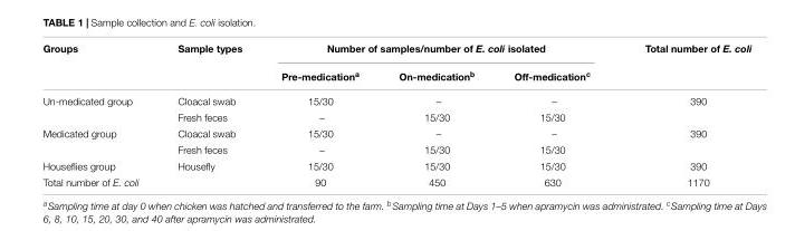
<table><thead><tr><td rowspan="2">Groups</td><td rowspan="2">Sample types</td><td colspan="3">Number of samples/number of E. coli isolated</td><td rowspan="2">Total number of E. coli</td></tr><tr><td>Pre-medication<sup>a</sup></td><td>On-medication<sup>b</sup></td><td>Off-medication<sup>c</sup></td></tr></thead><tbody><tr><td rowspan="2">Un-medicated group</td><td>Cloacal swab</td><td>15/30</td><td>–</td><td>–</td><td>390</td></tr><tr><td>Fresh feces</td><td>–</td><td>15/30</td><td>15/30</td><td></td></tr><tr><td rowspan="2">Medicated group</td><td>Cloacal swab</td><td>15/30</td><td>–</td><td>–</td><td>390</td></tr><tr><td>Fresh feces</td><td>–</td><td>15/30</td><td>15/30</td><td></td></tr><tr><td>Houseflies group</td><td>Housefly</td><td>15/30</td><td>15/30</td><td>15/30</td><td>390</td></tr><tr><td>Total number of E. coli</td><td></td><td>90</td><td>450</td><td>630</td><td>1170</td></tr></tbody></table>